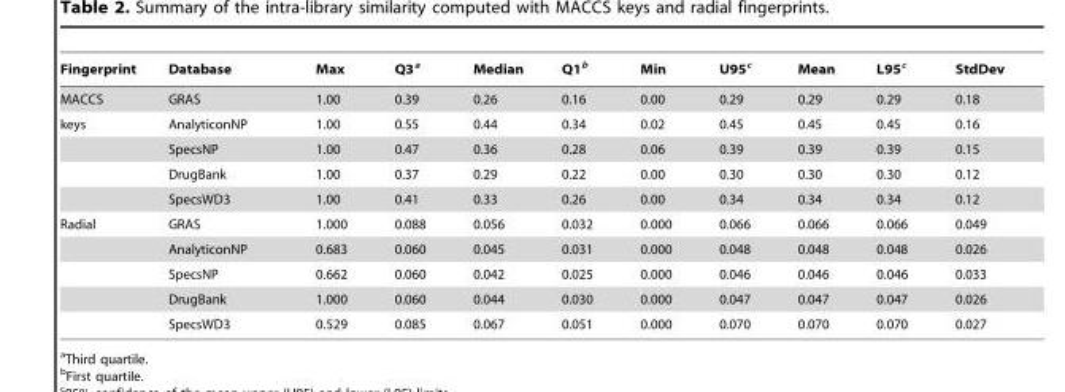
<table><thead><tr><td>Fingerprint</td><td>Database</td><td>Max</td><td>Q3<sup>a</sup></td><td>Median</td><td>Q1<sup>b</sup></td><td>Min</td><td>U95<sup>c</sup></td><td>Mean</td><td>L95<sup>c</sup></td><td>StdDev</td></tr></thead><tbody><tr><td>MACCS</td><td>GRAS</td><td>1.00</td><td>0.39</td><td>0.26</td><td>0.16</td><td>0.00</td><td>0.29</td><td>0.29</td><td>0.29</td><td>0.18</td></tr><tr><td rowspan="4">keys</td><td>AnalyticonNP</td><td>1.00</td><td>0.55</td><td>0.44</td><td>0.34</td><td>0.02</td><td>0.45</td><td>0.45</td><td>0.45</td><td>0.16</td></tr><tr><td>SpecsNP</td><td>1.00</td><td>0.47</td><td>0.36</td><td>0.28</td><td>0.06</td><td>0.39</td><td>0.39</td><td>0.39</td><td>0.15</td></tr><tr><td>DrugBank</td><td>1.00</td><td>0.37</td><td>0.29</td><td>0.22</td><td>0.00</td><td>0.30</td><td>0.30</td><td>0.30</td><td>0.12</td></tr><tr><td>SpecsWD3</td><td>1.00</td><td>0.41</td><td>0.33</td><td>0.26</td><td>0.00</td><td>0.34</td><td>0.34</td><td>0.34</td><td>0.12</td></tr><tr><td rowspan="5">Radial</td><td>GRAS</td><td>1.000</td><td>0.088</td><td>0.056</td><td>0.032</td><td>0.000</td><td>0.066</td><td>0.066</td><td>0.066</td><td>0.049</td></tr><tr><td>AnalyticonNP</td><td>0.683</td><td>0.060</td><td>0.045</td><td>0.031</td><td>0.000</td><td>0.048</td><td>0.048</td><td>0.048</td><td>0.026</td></tr><tr><td>SpecsNP</td><td>0.662</td><td>0.060</td><td>0.042</td><td>0.025</td><td>0.000</td><td>0.046</td><td>0.046</td><td>0.046</td><td>0.033</td></tr><tr><td>DrugBank</td><td>1.000</td><td>0.060</td><td>0.044</td><td>0.030</td><td>0.000</td><td>0.047</td><td>0.047</td><td>0.047</td><td>0.026</td></tr><tr><td>SpecsWD3</td><td>0.529</td><td>0.085</td><td>0.067</td><td>0.051</td><td>0.000</td><td>0.070</td><td>0.070</td><td>0.070</td><td>0.027</td></tr></tbody></table>